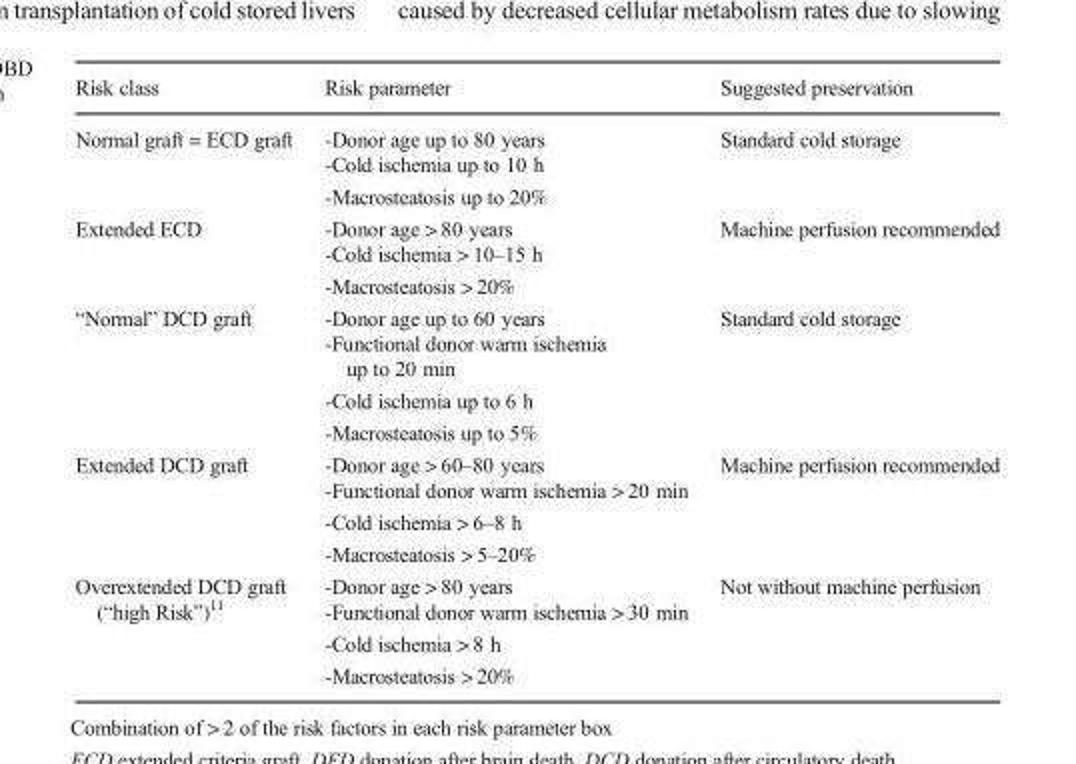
<table><thead><tr><td>Risk class</td><td>Risk parameter</td><td>Suggested preservation</td></tr></thead><tbody><tr><td rowspan="3">Normal graft = ECD graft</td><td>-Donor age up to 80 years</td><td rowspan="3">Standard cold storage</td></tr><tr><td>-Cold ischemia up to 10 h</td></tr><tr><td>-Macrosteatosis up to 20%</td></tr><tr><td rowspan="3">Extended ECD</td><td>-Donor age &gt; 80 years</td><td rowspan="3">Machine perfusion recommended</td></tr><tr><td>-Cold ischemia &gt; 10–15 h</td></tr><tr><td>-Macrosteatosis &gt; 20%</td></tr><tr><td rowspan="4">“Normal” DCD graft</td><td>-Donor age up to 60 years</td><td rowspan="4">Standard cold storage</td></tr><tr><td>-Functional donor warm ischemia up to 20 min</td></tr><tr><td>-Cold ischemia up to 6 h</td></tr><tr><td>-Macrosteatosis up to 5%</td></tr><tr><td rowspan="4">Extended DCD graft</td><td>-Donor age &gt; 60–80 years</td><td rowspan="4">Machine perfusion recommended</td></tr><tr><td>-Functional donor warm ischemia &gt; 20 min</td></tr><tr><td>-Cold ischemia &gt; 6–8 h</td></tr><tr><td>-Macrosteatosis &gt; 5–20%</td></tr><tr><td rowspan="4">Overextended DCD graft (“high Risk”)<sup>11</sup></td><td>-Donor age &gt; 80 years</td><td rowspan="4">Not without machine perfusion</td></tr><tr><td>-Functional donor warm ischemia &gt; 30 min</td></tr><tr><td>-Cold ischemia &gt; 8 h</td></tr><tr><td>-Macrosteatosis &gt; 20%</td></tr></tbody></table>